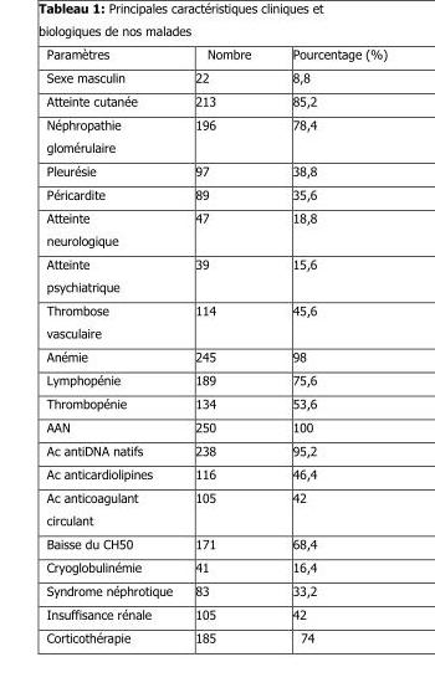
<table><thead><tr><td>Paramètres</td><td>Nombre</td><td>Pourcentage (%)</td></tr></thead><tbody><tr><td>Sexe masculin</td><td>22</td><td>8,8</td></tr><tr><td>Atteinte cutanée</td><td>213</td><td>85,2</td></tr><tr><td>Néphropathie glomérulaire</td><td>196</td><td>78,4</td></tr><tr><td>Pleurésie</td><td>97</td><td>38,8</td></tr><tr><td>Péricardite</td><td>89</td><td>35,6</td></tr><tr><td>Atteinte neurologique</td><td>47</td><td>18,8</td></tr><tr><td>Atteinte psychiatrique</td><td>39</td><td>15,6</td></tr><tr><td>Thrombose vasculaire</td><td>114</td><td>45,6</td></tr><tr><td>Anémie</td><td>245</td><td>98</td></tr><tr><td>Lymphopénie</td><td>189</td><td>75,6</td></tr><tr><td>Thrombopénie</td><td>134</td><td>53,6</td></tr><tr><td>AAN</td><td>250</td><td>100</td></tr><tr><td>Ac antiDNA natifs</td><td>238</td><td>95,2</td></tr><tr><td>Ac anticardiolipines</td><td>116</td><td>46,4</td></tr><tr><td>Ac anticoagulant circulant</td><td>105</td><td>42</td></tr><tr><td>Baisse du CH50</td><td>171</td><td>68,4</td></tr><tr><td>Cryoglobulinémie</td><td>41</td><td>16,4</td></tr><tr><td>Syndrome néphrotique</td><td>83</td><td>33,2</td></tr><tr><td>Insuffisance rénale</td><td>105</td><td>42</td></tr><tr><td>Corticothérapie</td><td>185</td><td>74</td></tr></tbody></table>